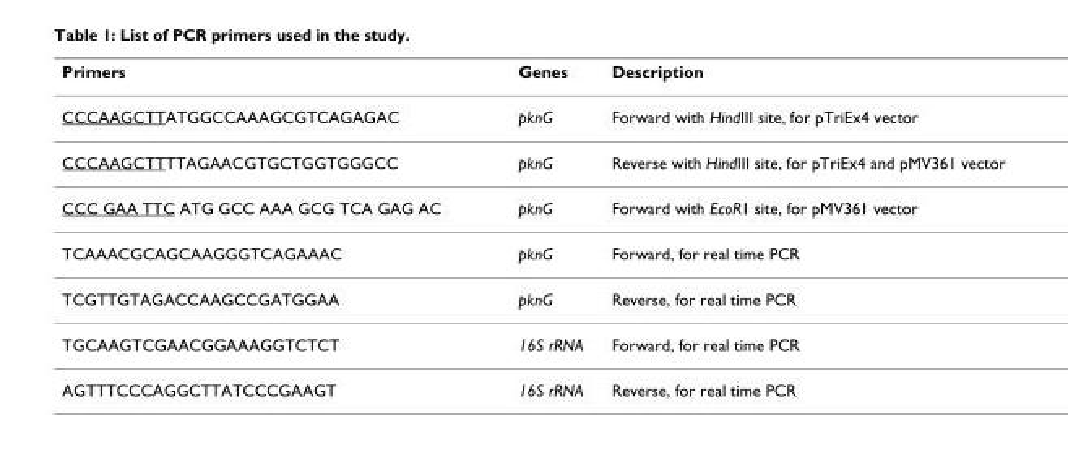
<table><thead><tr><td>Primers</td><td>Genes</td><td>Description</td></tr></thead><tbody><tr><td>CCCAAGCTTATGGCCAAAGCGTCAGAGAC</td><td>pknG</td><td>Forward with HindIII site, for pTriEx4 vector</td></tr><tr><td>CCCAAGCTTTTAGAACGTGCTGGTGGGCC</td><td>pknG</td><td>Reverse with HindIII site, for pTriEx4 and pMV361 vector</td></tr><tr><td>CCC GAA TTC ATG GCC AAA GCG TCA GAG AC</td><td>pknG</td><td>Forward with EcoR1 site, for pMV361 vector</td></tr><tr><td>TCAAACGCAGCAAGGGTCAGAAAC</td><td>pknG</td><td>Forward, for real time PCR</td></tr><tr><td>TCGTTGTAGACCAAGCCGATGGAA</td><td>pknG</td><td>Reverse, for real time PCR</td></tr><tr><td>TGCAAGTCGAACGGAAAGGTCTCT</td><td>16S rRNA</td><td>Forward, for real time PCR</td></tr><tr><td>AGTTTCCCAGGCTTATCCCGAAGT</td><td>16S rRNA</td><td>Reverse, for real time PCR</td></tr></tbody></table>